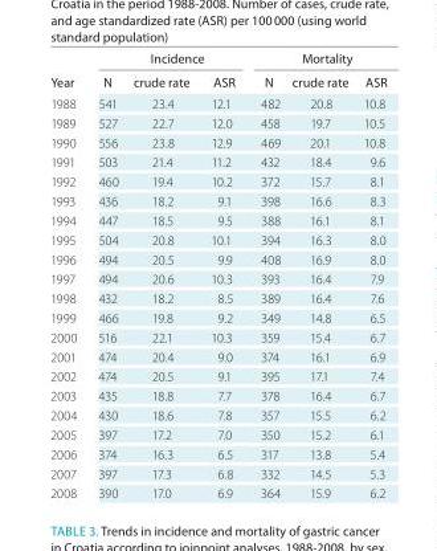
<table><thead><tr><td rowspan="2">Year</td><td colspan="3">Incidence</td><td colspan="3">Mortality</td></tr><tr><td>N</td><td>crude rate</td><td>AsR</td><td>N</td><td>crude rate</td><td>AsR</td></tr></thead><tbody><tr><td>1988</td><td>541</td><td>23.4</td><td>12.1</td><td>482</td><td>20.8</td><td>10.8</td></tr><tr><td>1989</td><td>527</td><td>22.7</td><td>12.0</td><td>458</td><td>19.7</td><td>10.5</td></tr><tr><td>1990</td><td>556</td><td>23.8</td><td>12.9</td><td>469</td><td>20.1</td><td>10.8</td></tr><tr><td>1991</td><td>503</td><td>21.4</td><td>11.2</td><td>432</td><td>18.4</td><td>9.6</td></tr><tr><td>1992</td><td>460</td><td>19.4</td><td>10.2</td><td>372</td><td>15.7</td><td>8.1</td></tr><tr><td>1993</td><td>436</td><td>18.2</td><td>9.1</td><td>398</td><td>16.6</td><td>8.3</td></tr><tr><td>1994</td><td>447</td><td>18.5</td><td>9.5</td><td>388</td><td>16.1</td><td>8.1</td></tr><tr><td>1995</td><td>504</td><td>20.8</td><td>10.1</td><td>394</td><td>16.3</td><td>8.0</td></tr><tr><td>1996</td><td>494</td><td>20.5</td><td>9.9</td><td>408</td><td>16.9</td><td>8.0</td></tr><tr><td>1997</td><td>494</td><td>20.6</td><td>10.3</td><td>393</td><td>16.4</td><td>7.9</td></tr><tr><td>1998</td><td>432</td><td>18.2</td><td>8.5</td><td>389</td><td>16.4</td><td>7.6</td></tr><tr><td>1999</td><td>466</td><td>19.8</td><td>9.2</td><td>349</td><td>14.8</td><td>6.5</td></tr><tr><td>2000</td><td>516</td><td>22.1</td><td>10.3</td><td>359</td><td>15.4</td><td>6.7</td></tr><tr><td>2001</td><td>474</td><td>20.4</td><td>9.0</td><td>374</td><td>16.1</td><td>6.9</td></tr><tr><td>2002</td><td>474</td><td>20.5</td><td>9.1</td><td>395</td><td>17.1</td><td>7.4</td></tr><tr><td>2003</td><td>435</td><td>18.8</td><td>7.7</td><td>378</td><td>16.4</td><td>6.7</td></tr><tr><td>2004</td><td>430</td><td>18.6</td><td>7.8</td><td>357</td><td>15.5</td><td>6.2</td></tr><tr><td>2005</td><td>397</td><td>17.2</td><td>7.0</td><td>350</td><td>15.2</td><td>6.1</td></tr><tr><td>2006</td><td>374</td><td>16.3</td><td>6.5</td><td>317</td><td>13.8</td><td>5.4</td></tr><tr><td>2007</td><td>397</td><td>17.3</td><td>6.8</td><td>332</td><td>14.5</td><td>5.3</td></tr><tr><td>2008</td><td>390</td><td>17.0</td><td>6.9</td><td>364</td><td>15.9</td><td>6.2</td></tr></tbody></table>